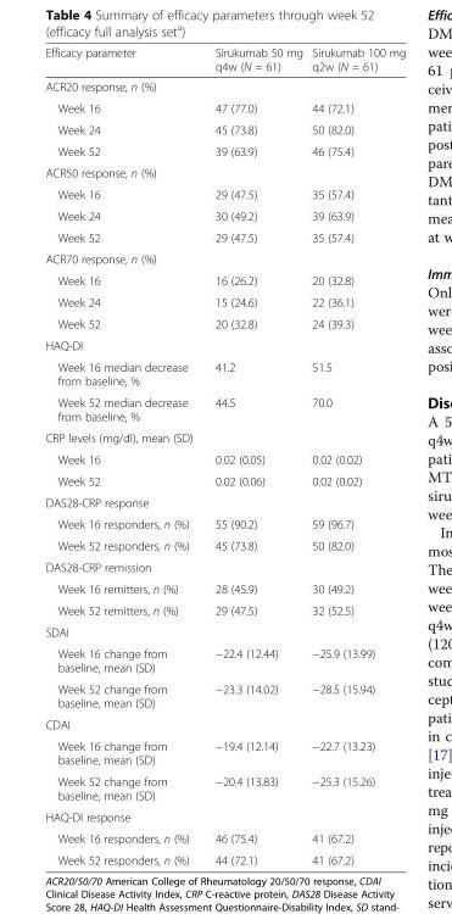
<table><thead><tr><td>Efficacy parameter</td><td>Sirukumab 50 mg q4w (N = 61)</td><td>Sirukumab 100 mg q2w (N = 61)</td></tr></thead><tbody><tr><td colspan="3">ACR20 response, n (%)</td></tr><tr><td>Week 16</td><td>47 (77.0)</td><td>44 (72.1)</td></tr><tr><td>Week 24</td><td>45 (73.8)</td><td>50 (82.0)</td></tr><tr><td>Week 52</td><td>39 (63.9)</td><td>46 (75.4)</td></tr><tr><td colspan="3">ACR50 response, n (%)</td></tr><tr><td>Week 16</td><td>29 (47.5)</td><td>35 (57.4)</td></tr><tr><td>Week 24</td><td>30 (49.2)</td><td>39 (63.9)</td></tr><tr><td>Week 52</td><td>29 (47.5)</td><td>35 (57.4)</td></tr><tr><td colspan="3">ACR70 response, n (%)</td></tr><tr><td>Week 16</td><td>16 (26.2)</td><td>20 (32.8)</td></tr><tr><td>Week 24</td><td>15 (24.6)</td><td>22 (36.1)</td></tr><tr><td>Week 52</td><td>20 (32.8)</td><td>24 (39.3)</td></tr><tr><td colspan="3">HAQ-DI</td></tr><tr><td>Week 16 median decrease from baseline, %</td><td>41.2</td><td>51.5</td></tr><tr><td>Week 52 median decrease from baseline, %</td><td>44.5</td><td>70.0</td></tr><tr><td colspan="3">CRP levels (mg/dl), mean (SD)</td></tr><tr><td>Week 16</td><td>0.02 (0.05)</td><td>0.02 (0.02)</td></tr><tr><td>Week 52</td><td>0.02 (0.06)</td><td>0.02 (0.02)</td></tr><tr><td colspan="3">DAS28-CRP response</td></tr><tr><td>Week 16 responders, n (%)</td><td>55 (90.2)</td><td>59 (96.7)</td></tr><tr><td>Week 52 responders, n (%)</td><td>45 (73.8)</td><td>50 (82.0)</td></tr><tr><td colspan="3">DAS28-CRP remission</td></tr><tr><td>Week 16 remitters, n (%)</td><td>28 (45.9)</td><td>30 (49.2)</td></tr><tr><td>Week 52 remitters, n (%)</td><td>29 (47.5)</td><td>32 (52.5)</td></tr><tr><td colspan="3">SDAI</td></tr><tr><td>Week 16 change from baseline, mean (SD)</td><td>−22.4 (12.44)</td><td>−25.9 (13.99)</td></tr><tr><td>Week 52 change from baseline, mean (SD)</td><td>−23.3 (14.02)</td><td>−28.5 (15.94)</td></tr><tr><td colspan="3">CDAI</td></tr><tr><td>Week 16 change from baseline, mean (SD)</td><td>−19.4 (12.14)</td><td>−22.7 (13.23)</td></tr><tr><td>Week 52 change from baseline, mean (SD)</td><td>−20.4 (13.83)</td><td>−25.3 (15.26)</td></tr><tr><td colspan="3">HAQ-DI response</td></tr><tr><td>Week 16 responders, n (%)</td><td>46 (75.4)</td><td>41 (67.2)</td></tr><tr><td>Week 52 responders, n (%)</td><td>44 (72.1)</td><td>41 (67.2)</td></tr></tbody></table>